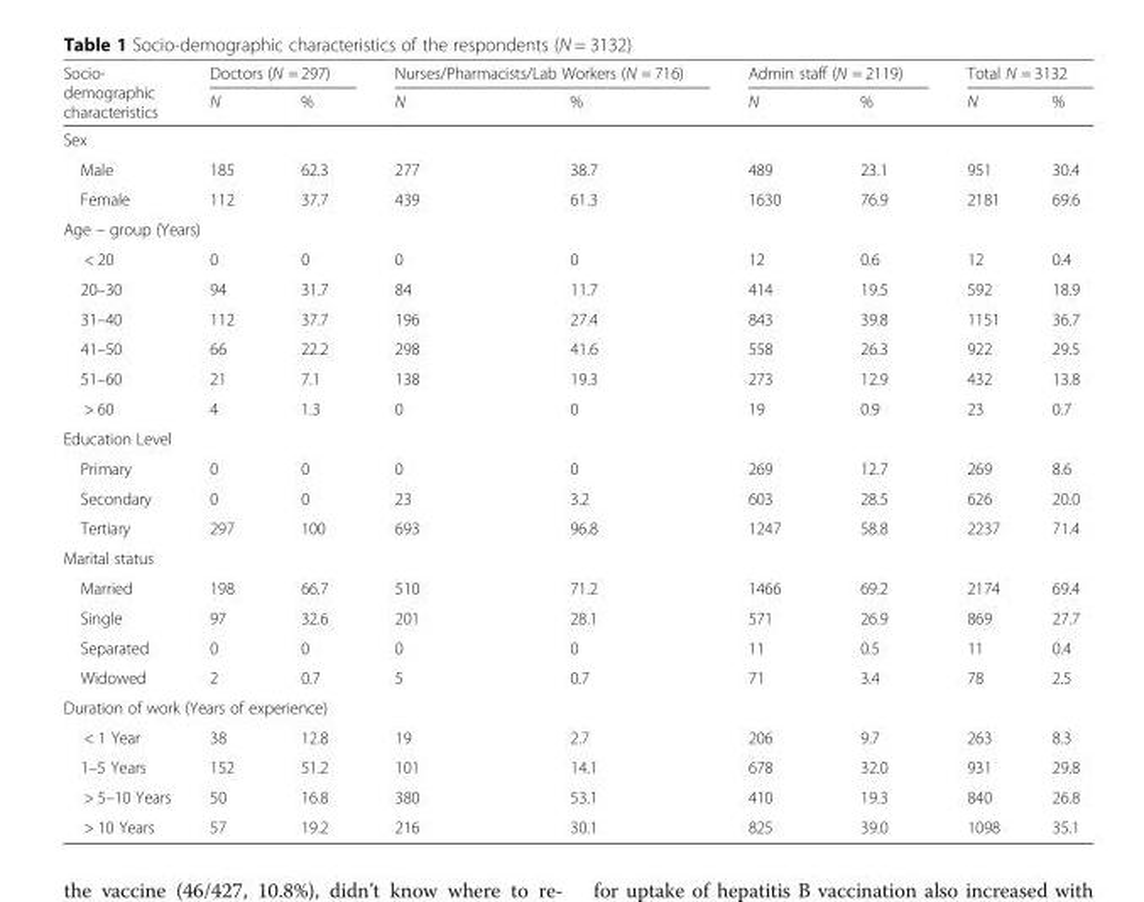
<table><thead><tr><td rowspan="2">Socio- demographic characteristics</td><td colspan="2">Doctors (N = 297)</td><td colspan="2">Nurses/Pharmacists/Lab Workers (N = 716)</td><td colspan="2">Admin staff (N = 2119)</td><td colspan="2">Total N = 3132</td></tr><tr><td>N</td><td>%</td><td>N</td><td>%</td><td>N</td><td>%</td><td>N</td><td>%</td></tr></thead><tbody><tr><td colspan="9">Sex</td></tr><tr><td>Male</td><td>185</td><td>62.3</td><td>277</td><td>38.7</td><td>489</td><td>23.1</td><td>951</td><td>30.4</td></tr><tr><td>Female</td><td>112</td><td>37.7</td><td>439</td><td>61.3</td><td>1630</td><td>76.9</td><td>2181</td><td>69.6</td></tr><tr><td colspan="9">Age – group (Years)</td></tr><tr><td>&lt; 20</td><td>0</td><td>0</td><td>0</td><td>0</td><td>12</td><td>0.6</td><td>12</td><td>0.4</td></tr><tr><td>20–30</td><td>94</td><td>31.7</td><td>84</td><td>11.7</td><td>414</td><td>19.5</td><td>592</td><td>18.9</td></tr><tr><td>31–40</td><td>112</td><td>37.7</td><td>196</td><td>27.4</td><td>843</td><td>39.8</td><td>1151</td><td>36.7</td></tr><tr><td>41–50</td><td>66</td><td>22.2</td><td>298</td><td>41.6</td><td>558</td><td>26.3</td><td>922</td><td>29.5</td></tr><tr><td>51–60</td><td>21</td><td>7.1</td><td>138</td><td>19.3</td><td>273</td><td>12.9</td><td>432</td><td>13.8</td></tr><tr><td>&gt; 60</td><td>4</td><td>1.3</td><td>0</td><td>0</td><td>19</td><td>0.9</td><td>23</td><td>0.7</td></tr><tr><td colspan="9">Education Level</td></tr><tr><td>Primary</td><td>0</td><td>0</td><td>0</td><td>0</td><td>269</td><td>12.7</td><td>269</td><td>8.6</td></tr><tr><td>Secondary</td><td>0</td><td>0</td><td>23</td><td>3.2</td><td>603</td><td>28.5</td><td>626</td><td>20.0</td></tr><tr><td>Tertiary</td><td>297</td><td>100</td><td>693</td><td>96.8</td><td>1247</td><td>58.8</td><td>2237</td><td>71.4</td></tr><tr><td colspan="9">Marital status</td></tr><tr><td>Married</td><td>198</td><td>66.7</td><td>510</td><td>71.2</td><td>1466</td><td>69.2</td><td>2174</td><td>69.4</td></tr><tr><td>Single</td><td>97</td><td>32.6</td><td>201</td><td>28.1</td><td>571</td><td>26.9</td><td>869</td><td>27.7</td></tr><tr><td>Separated</td><td>0</td><td>0</td><td>0</td><td>0</td><td>11</td><td>0.5</td><td>11</td><td>0.4</td></tr><tr><td>Widowed</td><td>2</td><td>0.7</td><td>5</td><td>0.7</td><td>71</td><td>3.4</td><td>78</td><td>2.5</td></tr><tr><td colspan="9">Duration of work (Years of experience)</td></tr><tr><td>&lt; 1 Year</td><td>38</td><td>12.8</td><td>19</td><td>2.7</td><td>206</td><td>9.7</td><td>263</td><td>8.3</td></tr><tr><td>1–5 Years</td><td>152</td><td>51.2</td><td>101</td><td>14.1</td><td>678</td><td>32.0</td><td>931</td><td>29.8</td></tr><tr><td>&gt; 5–10 Years</td><td>50</td><td>16.8</td><td>380</td><td>53.1</td><td>410</td><td>19.3</td><td>840</td><td>26.8</td></tr><tr><td>&gt; 10 Years</td><td>57</td><td>19.2</td><td>216</td><td>30.1</td><td>825</td><td>39.0</td><td>1098</td><td>35.1</td></tr></tbody></table>